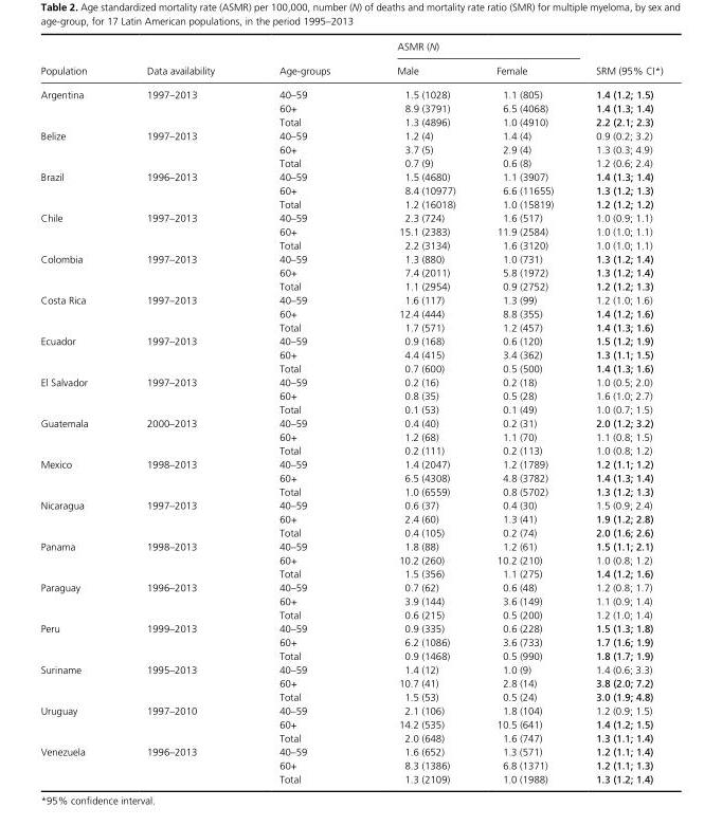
<table><thead><tr><td rowspan="2">Population</td><td rowspan="2">Data availability</td><td rowspan="2">Age- groups</td><td colspan="2">ASMR (N)</td><td rowspan="2">SRM (95% CI*)</td></tr><tr><td>Male</td><td>Female</td></tr></thead><tbody><tr><td rowspan="3">Argentina</td><td rowspan="3">1997–2013</td><td>40–59</td><td>1.5 (1028)</td><td>1.1 (805)</td><td>1.4 (1.2; 1.5)</td></tr><tr><td>60+</td><td>8.9 (3791)</td><td>6.5 (4068)</td><td>1.4 (1.3; 1.4)</td></tr><tr><td>Total</td><td>1.3 (4896)</td><td>1.0 (4910)</td><td>2.2 (2.1; 2.3)</td></tr><tr><td rowspan="3">Belize</td><td rowspan="3">1997–2013</td><td>40–59</td><td>1.2 (4)</td><td>1.4 (4)</td><td>0.9 (0.2; 3.2)</td></tr><tr><td>60+</td><td>3.7 (5)</td><td>2.9 (4)</td><td>1.3 (0.3; 4.9)</td></tr><tr><td>Total</td><td>0.7 (9)</td><td>0.6 (8)</td><td>1.2 (0.6; 2.4)</td></tr><tr><td rowspan="3">Brazil</td><td rowspan="3">1996–2013</td><td>40–59</td><td>1.5 (4680)</td><td>1.1 (3907)</td><td>1.4 (1.3; 1.4)</td></tr><tr><td>60+</td><td>8.4 (10977)</td><td>6.6 (11655)</td><td>1.3 (1.2; 1.3)</td></tr><tr><td>Total</td><td>1.2 (16018)</td><td>1.0 (15819)</td><td>1.2 (1.2; 1.2)</td></tr><tr><td rowspan="3">Chile</td><td rowspan="3">1997–2013</td><td>40–59</td><td>2.3 (724)</td><td>1.6 (517)</td><td>1.0 (0.9; 1.1)</td></tr><tr><td>60+</td><td>15.1 (2383)</td><td>11.9 (2584)</td><td>1.0 (1.0; 1.1)</td></tr><tr><td>Total</td><td>2.2 (3134)</td><td>1.6 (3120)</td><td>1.0 (1.0; 1.1)</td></tr><tr><td rowspan="3">Colombia</td><td rowspan="3">1997–2013</td><td>40–59</td><td>1.3 (880)</td><td>1.0 (731)</td><td>1.3 (1.2; 1.4)</td></tr><tr><td>60+</td><td>7.4 (2011)</td><td>5.8 (1972)</td><td>1.3 (1.2; 1.4)</td></tr><tr><td>Total</td><td>1.1 (2954)</td><td>0.9 (2752)</td><td>1.2 (1.2; 1.3)</td></tr><tr><td rowspan="3">Costa Rica</td><td rowspan="3">1997–2013</td><td>40–59</td><td>1.6 (117)</td><td>1.3 (99)</td><td>1.2 (1.0; 1.6)</td></tr><tr><td>60+</td><td>12.4 (444)</td><td>8.8 (355)</td><td>1.4 (1.2; 1.6)</td></tr><tr><td>Total</td><td>1.7 (571)</td><td>1.2 (457)</td><td>1.4 (1.3; 1.6)</td></tr><tr><td rowspan="3">Ecuador</td><td rowspan="3">1997–2013</td><td>40–59</td><td>0.9 (168)</td><td>0.6 (120)</td><td>1.5 (1.2; 1.9)</td></tr><tr><td>60+</td><td>4.4 (415)</td><td>3.4 (362)</td><td>1.3 (1.1; 1.5)</td></tr><tr><td>Total</td><td>0.7 (600)</td><td>0.5 (500)</td><td>1.4 (1.3; 1.6)</td></tr><tr><td rowspan="3">El Salvador</td><td rowspan="3">1997–2013</td><td>40–59</td><td>0.2 (16)</td><td>0.2 (18)</td><td>1.0 (0.5; 2.0)</td></tr><tr><td>60+</td><td>0.8 (35)</td><td>0.5 (28)</td><td>1.6 (1.0; 2.7)</td></tr><tr><td>Total</td><td>0.1 (53)</td><td>0.1 (49)</td><td>1.0 (0.7; 1.5)</td></tr><tr><td rowspan="3">Guatemala</td><td rowspan="3">2000–2013</td><td>40–59</td><td>0.4 (40)</td><td>0.2 (31)</td><td>2.0 (1.2; 3.2)</td></tr><tr><td>60+</td><td>1.2 (68)</td><td>1.1 (70)</td><td>1.1 (0.8; 1.5)</td></tr><tr><td>Total</td><td>0.2 (111)</td><td>0.2 (113)</td><td>1.0 (0.8; 1.2)</td></tr><tr><td rowspan="3">Mexico</td><td rowspan="3">1998–2013</td><td>40–59</td><td>1.4 (2047)</td><td>1.2 (1789)</td><td>1.2 (1.1; 1.2)</td></tr><tr><td>60+</td><td>6.5 (4308)</td><td>4.8 (3782)</td><td>1.4 (1.3; 1.4)</td></tr><tr><td>Total</td><td>1.0 (6559)</td><td>0.8 (5702)</td><td>1.3 (1.2; 1.3)</td></tr><tr><td rowspan="3">Nicaragua</td><td rowspan="3">1997–2013</td><td>40–59</td><td>0.6 (37)</td><td>0.4 (30)</td><td>1.5 (0.9; 2.4)</td></tr><tr><td>60+</td><td>2.4 (60)</td><td>1.3 (41)</td><td>1.9 (1.2; 2.8)</td></tr><tr><td>Total</td><td>0.4 (105)</td><td>0.2 (74)</td><td>2.0 (1.6; 2.6)</td></tr><tr><td rowspan="3">Panama</td><td rowspan="3">1998–2013</td><td>40–59</td><td>1.8 (88)</td><td>1.2 (61)</td><td>1.5 (1.1; 2.1)</td></tr><tr><td>60+</td><td>10.2 (260)</td><td>10.2 (210)</td><td>1.0 (0.8; 1.2)</td></tr><tr><td>Total</td><td>1.5 (356)</td><td>1.1 (275)</td><td>1.4 (1.2; 1.6)</td></tr><tr><td rowspan="3">Paraguay</td><td rowspan="3">1996–2013</td><td>40–59</td><td>0.7 (62)</td><td>0.6 (48)</td><td>1.2 (0.8; 1.7)</td></tr><tr><td>60+</td><td>3.9 (144)</td><td>3.6 (149)</td><td>1.1 (0.9; 1.4)</td></tr><tr><td>Total</td><td>0.6 (215)</td><td>0.5 (200)</td><td>1.2 (1.0; 1.4)</td></tr><tr><td rowspan="3">Peru</td><td rowspan="3">1999–2013</td><td>40–59</td><td>0.9 (335)</td><td>0.6 (228)</td><td>1.5 (1.3; 1.8)</td></tr><tr><td>60+</td><td>6.2 (1086)</td><td>3.6 (733)</td><td>1.7 (1.6; 1.9)</td></tr><tr><td>Total</td><td>0.9 (1468)</td><td>0.5 (990)</td><td>1.8 (1.7; 1.9)</td></tr><tr><td rowspan="3">Suriname</td><td rowspan="3">1995–2013</td><td>40–59</td><td>1.4 (12)</td><td>1.0 (9)</td><td>1.4 (0.6; 3.3)</td></tr><tr><td>60+</td><td>10.7 (41)</td><td>2.8 (14)</td><td>3.8 (2.0; 7.2)</td></tr><tr><td>Total</td><td>1.5 (53)</td><td>0.5 (24)</td><td>3.0 (1.9; 4.8)</td></tr><tr><td rowspan="3">Uruguay</td><td rowspan="3">1997–2010</td><td>40–59</td><td>2.1 (106)</td><td>1.8 (104)</td><td>1.2 (0.9; 1.5)</td></tr><tr><td>60+</td><td>14.2 (535)</td><td>10.5 (641)</td><td>1.4 (1.2; 1.5)</td></tr><tr><td>Total</td><td>2.0 (648)</td><td>1.6 (747)</td><td>1.3 (1.1; 1.4)</td></tr><tr><td rowspan="3">Venezuela</td><td rowspan="3">1996–2013</td><td>40–59</td><td>1.6 (652)</td><td>1.3 (571)</td><td>1.2 (1.1; 1.4)</td></tr><tr><td>60+</td><td>8.3 (1386)</td><td>6.8 (1371)</td><td>1.2 (1.1; 1.3)</td></tr><tr><td>Total</td><td>1.3 (2109)</td><td>1.0 (1988)</td><td>1.3 (1.2; 1.4)</td></tr></tbody></table>